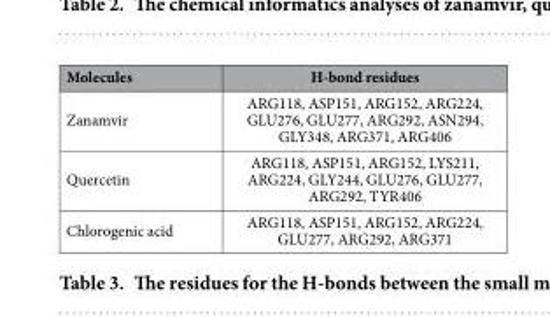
<table><thead><tr><td>Molecules</td><td>H-bond residues</td></tr></thead><tbody><tr><td>Zanamvir</td><td>ARG118, ASP151, ARG152, ARG224, GLU276, GLU277, ARG292, ASN294, GLY348, ARG371, ARG406</td></tr><tr><td>Quercetin</td><td>ARG118, ASP151, ARG152, LYS211, ARG224, GLY244, GLU276, GLU277, ARG292, TYR406</td></tr><tr><td>Chlorogenic acid</td><td>ARG118, ASP151, ARG152, ARG224, GLU277, ARG292, ARG371</td></tr></tbody></table>